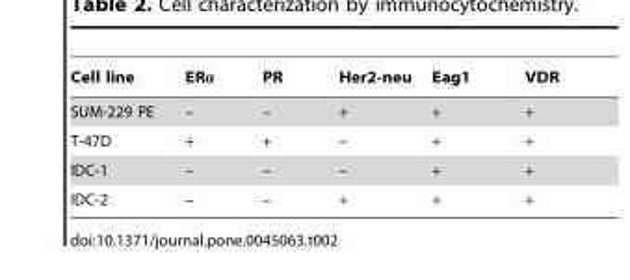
<table><thead><tr><td>Cell line</td><td>ERα</td><td>PR</td><td>Her2-neu</td><td>Eag1</td><td>VDR</td></tr></thead><tbody><tr><td>SUM-229 PE</td><td>–</td><td>–</td><td>+</td><td>+</td><td>+</td></tr><tr><td>T-47D</td><td>+</td><td>+</td><td>–</td><td>+</td><td>+</td></tr><tr><td>IDC-1</td><td>–</td><td>–</td><td>–</td><td>+</td><td>+</td></tr><tr><td>IDC-2</td><td>–</td><td>–</td><td>+</td><td>+</td><td>+</td></tr></tbody></table>